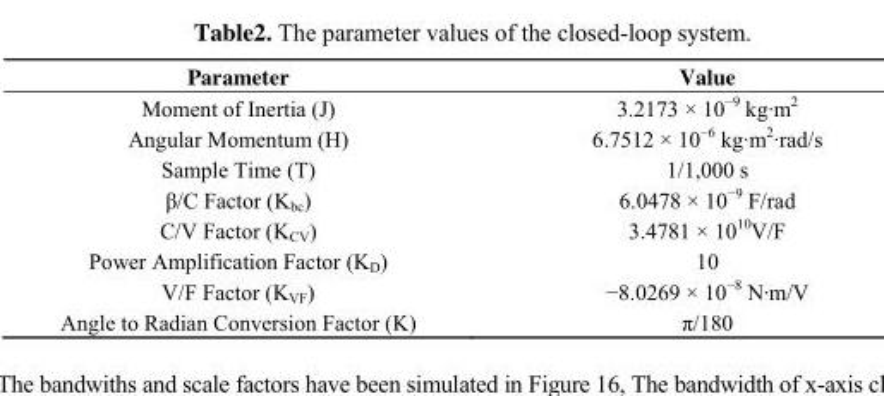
<table><thead><tr><td>Parameter</td><td>Value</td></tr></thead><tbody><tr><td>Moment of Inertia (J)</td><td>3.2173 × 10<sup>−9</sup> kg·m<sup>2</sup></td></tr><tr><td>Angular Momentum (H)</td><td>6.7512 × 10<sup>−6</sup> kg·m<sup>2</sup>·rad/s</td></tr><tr><td>Sample Time (T)</td><td>1/1,000 s</td></tr><tr><td>β/C Factor (K<sub>bc</sub>)</td><td>6.0478 × 10<sup>−9</sup> F/rad</td></tr><tr><td>C/V Factor (K<sub>CV</sub>)</td><td>3.4781 × 10<sup>10</sup>V/F</td></tr><tr><td>Power Amplification Factor (K<sub>D</sub>)</td><td>10</td></tr><tr><td>V/F Factor (K<sub>VF</sub>)</td><td>−8.0269 × 10<sup>−8</sup> N·m/V</td></tr><tr><td>Angle to Radian Conversion Factor (K)</td><td>π/180</td></tr></tbody></table>